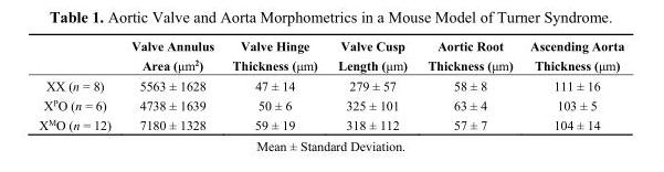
<table><thead><tr><td></td><td>Valve Annulus Area (μm<sup>2</sup>)</td><td>Valve Hinge Thickness (μm)</td><td>Valve Cusp Length (μm)</td><td>Aortic Root Thickness (μm)</td><td>Ascending Aorta Thickness (μm)</td></tr></thead><tbody><tr><td>XX (n = 8)</td><td>5563 ± 1628</td><td>47 ± 14</td><td>279 ± 57</td><td>58 ± 8</td><td>111 ± 16</td></tr><tr><td>X<sup>P</sup>O (n = 6)</td><td>4738 ± 1639</td><td>50 ± 6</td><td>325 ± 101</td><td>63 ± 4</td><td>103 ± 5</td></tr><tr><td>X<sup>M</sup>O (n = 12)</td><td>7180 ± 1328</td><td>59 ± 19</td><td>318 ± 112</td><td>57 ± 7</td><td>104 ± 14</td></tr></tbody></table>